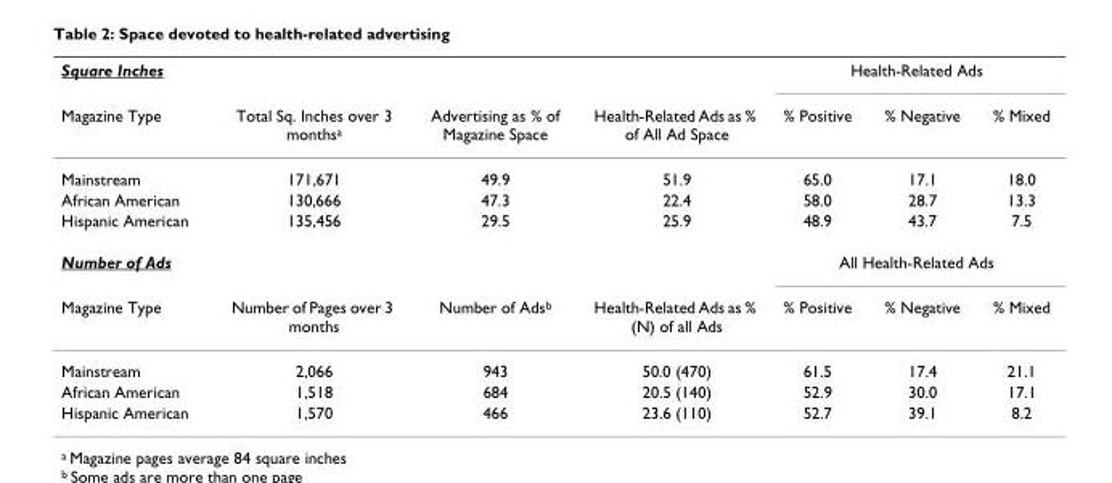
<table><thead><tr><td rowspan="2">Square Inches Magazine Type</td><td rowspan="2">Total Sq. Inches over 3 months<sup>a</sup></td><td rowspan="2">Advertising as % of Magazine Space</td><td rowspan="2">Health-Related Ads as % of All Ad Space</td><td colspan="3">Health-Related Ads</td></tr><tr><td>% Positive</td><td>% Negative</td><td>% Mixed</td></tr></thead><tbody><tr><td>Mainstream</td><td>171,671</td><td>49.9</td><td>51.9</td><td>65.0</td><td>17.1</td><td>18.0</td></tr><tr><td>African American</td><td>130,666</td><td>47.3</td><td>22.4</td><td>58.0</td><td>28.7</td><td>13.3</td></tr><tr><td>Hispanic American</td><td>135,456</td><td>29.5</td><td>25.9</td><td>48.9</td><td>43.7</td><td>7.5</td></tr><tr><td>Number of Ads</td><td></td><td></td><td></td><td colspan="3">All Health-Related Ads</td></tr><tr><td>Magazine Type</td><td>Number of Pages over 3 months</td><td>Number of Ads<sup>b</sup></td><td>Health-Related Ads as % (N) of all Ads</td><td>% Positive</td><td>% Negative</td><td>% Mixed</td></tr><tr><td>Mainstream</td><td>2,066</td><td>943</td><td>50.0 (470)</td><td>61.5</td><td>17.4</td><td>21.1</td></tr><tr><td>African American</td><td>1,518</td><td>684</td><td>20.5 (140)</td><td>52.9</td><td>30.0</td><td>17.1</td></tr><tr><td>Hispanic American</td><td>1,570</td><td>466</td><td>23.6 (110)</td><td>52.7</td><td>39.1</td><td>8.2</td></tr></tbody></table>